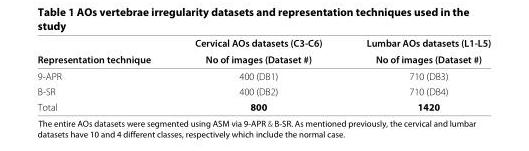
<table><thead><tr><td rowspan="2">Representation technique</td><td rowspan="2">Cervical AOs datasets (C3-C6) No of images (Dataset #)</td><td rowspan="2">Lumbar AOs datasets (L1-L5) No of images (Dataset #)</td></tr><tr></tr></thead><tbody><tr><td>9-APR</td><td>400 (DB1)</td><td>710 (DB3)</td></tr><tr><td>B-SR</td><td>400 (DB2)</td><td>710 (DB4)</td></tr><tr><td>Total</td><td>800</td><td>1420</td></tr></tbody></table>